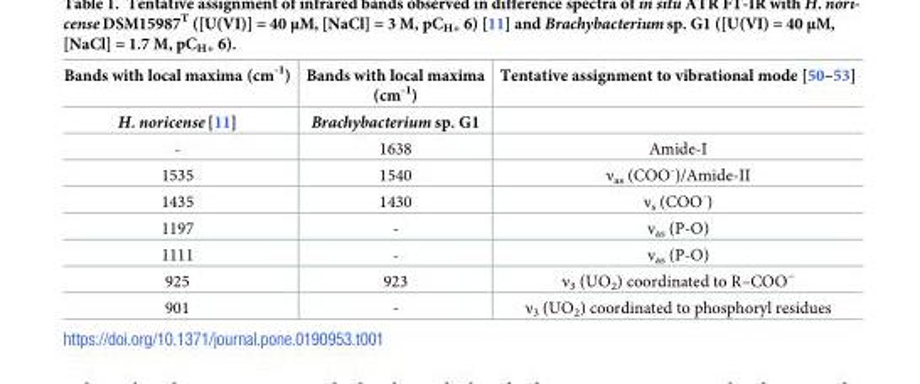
<table><thead><tr><td rowspan="2">Bands with local maxima (cm<sup>-1</sup>) H. noricense [11]</td><td rowspan="2">Bands with local maxima (cm<sup>-1</sup>) Brachybacterium sp. G1</td><td rowspan="2">Tentative assignment to vibrational mode [50–53]</td></tr><tr></tr></thead><tbody><tr><td>-</td><td>1638</td><td>Amide-I</td></tr><tr><td>1535</td><td>1540</td><td>ν<sub>as</sub> (COO<sup>-</sup>)/Amide-II</td></tr><tr><td>1435</td><td>1430</td><td>ν<sub>s</sub> (COO<sup>-</sup>)</td></tr><tr><td>1197</td><td>-</td><td>ν<sub>as</sub> (P-O)</td></tr><tr><td>1111</td><td>-</td><td>ν<sub>as</sub> (P-O)</td></tr><tr><td>925</td><td>923</td><td>ν<sub>3</sub> (UO<sub>2</sub>) coordinated to R–COO<sup>−</sup></td></tr><tr><td>901</td><td>-</td><td>ν<sub>3</sub> (UO<sub>2</sub>) coordinated to phosphoryl residues</td></tr></tbody></table>